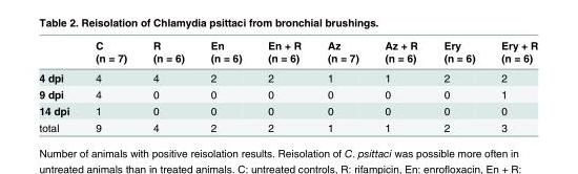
<table><thead><tr><td rowspan="2"></td><td rowspan="2">C (n = 7)</td><td rowspan="2">R (n = 6)</td><td rowspan="2">En (n = 6)</td><td rowspan="2">En + R (n = 6)</td><td rowspan="2">Az (n = 7)</td><td rowspan="2">Az + R (n = 6)</td><td rowspan="2">Ery (n = 6)</td><td rowspan="2">Ery + R (n = 6)</td></tr><tr></tr></thead><tbody><tr><td>4 dpi</td><td>4</td><td>4</td><td>2</td><td>2</td><td>1</td><td>1</td><td>2</td><td>2</td></tr><tr><td>9 dpi</td><td>4</td><td>0</td><td>0</td><td>0</td><td>0</td><td>0</td><td>0</td><td>1</td></tr><tr><td>14 dpi</td><td>1</td><td>0</td><td>0</td><td>0</td><td>0</td><td>0</td><td>0</td><td>0</td></tr><tr><td>total</td><td>9</td><td>4</td><td>2</td><td>2</td><td>1</td><td>1</td><td>2</td><td>3</td></tr></tbody></table>